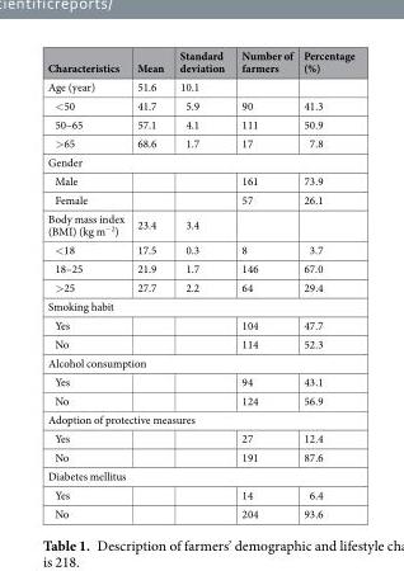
<table><thead><tr><td>Characteristics</td><td>Mean</td><td>Standard deviation</td><td>Number of farmers</td><td>Percentage (%)</td></tr></thead><tbody><tr><td>Age (year)</td><td>51.6</td><td>10.1</td><td></td><td></td></tr><tr><td>&lt;50</td><td>41.7</td><td>5.9</td><td>90</td><td>41.3</td></tr><tr><td>50–65</td><td>57.1</td><td>4.1</td><td>111</td><td>50.9</td></tr><tr><td>&gt;65</td><td>68.6</td><td>1.7</td><td>17</td><td>7.8</td></tr><tr><td colspan="5">Gender</td></tr><tr><td>Male</td><td></td><td></td><td>161</td><td>73.9</td></tr><tr><td>Female</td><td></td><td></td><td>57</td><td>26.1</td></tr><tr><td>Body mass index (BMI) (kg m<sup>−2</sup>)</td><td>23.4</td><td>3.4</td><td></td><td></td></tr><tr><td>&lt;18</td><td>17.5</td><td>0.3</td><td>8</td><td>3.7</td></tr><tr><td>18–25</td><td>21.9</td><td>1.7</td><td>146</td><td>67.0</td></tr><tr><td>&gt;25</td><td>27.7</td><td>2.2</td><td>64</td><td>29.4</td></tr><tr><td colspan="5">Smoking habit</td></tr><tr><td>Yes</td><td></td><td></td><td>104</td><td>47.7</td></tr><tr><td>No</td><td></td><td></td><td>114</td><td>52.3</td></tr><tr><td colspan="5">Alcohol consumption</td></tr><tr><td>Yes</td><td></td><td></td><td>94</td><td>43.1</td></tr><tr><td>No</td><td></td><td></td><td>124</td><td>56.9</td></tr><tr><td colspan="5">Adoption of protective measures</td></tr><tr><td>Yes</td><td></td><td></td><td>27</td><td>12.4</td></tr><tr><td>No</td><td></td><td></td><td>191</td><td>87.6</td></tr><tr><td colspan="5">Diabetes mellitus</td></tr><tr><td>Yes</td><td></td><td></td><td>14</td><td>6.4</td></tr><tr><td>No</td><td></td><td></td><td>204</td><td>93.6</td></tr></tbody></table>